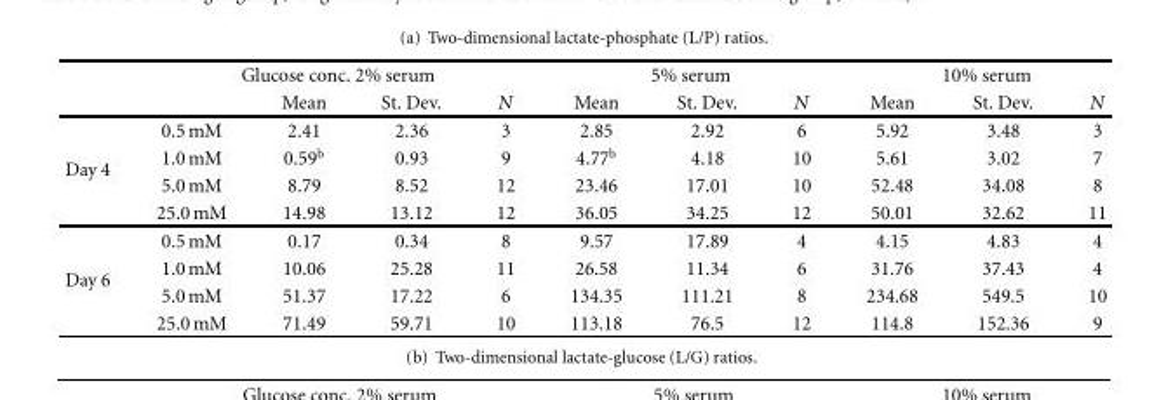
<table><thead><tr><td rowspan="2"></td><td colspan="4">Glucose conc. 2% serum</td><td colspan="3">5% serum</td><td colspan="3">10% serum</td></tr><tr><td></td><td>Mean</td><td>St. Dev.</td><td>N</td><td>Mean</td><td>St. Dev.</td><td>N</td><td>Mean</td><td>St. Dev.</td><td>N</td></tr></thead><tbody><tr><td rowspan="4">Day 4</td><td>0.5 mM</td><td>2.41</td><td>2.36</td><td>3</td><td>2.85</td><td>2.92</td><td>6</td><td>5.92</td><td>3.48</td><td>3</td></tr><tr><td>1.0 mM</td><td>0.59<sup>b</sup></td><td>0.93</td><td>9</td><td>4.77<sup>b</sup></td><td>4.18</td><td>10</td><td>5.61</td><td>3.02</td><td>7</td></tr><tr><td>5.0 mM</td><td>8.79</td><td>8.52</td><td>12</td><td>23.46</td><td>17.01</td><td>10</td><td>52.48</td><td>34.08</td><td>8</td></tr><tr><td>25.0 mM</td><td>14.98</td><td>13.12</td><td>12</td><td>36.05</td><td>34.25</td><td>12</td><td>50.01</td><td>32.62</td><td>11</td></tr><tr><td rowspan="4">Day 6</td><td>0.5 mM</td><td>0.17</td><td>0.34</td><td>8</td><td>9.57</td><td>17.89</td><td>4</td><td>4.15</td><td>4.83</td><td>4</td></tr><tr><td>1.0 mM</td><td>10.06</td><td>25.28</td><td>11</td><td>26.58</td><td>11.34</td><td>6</td><td>31.76</td><td>37.43</td><td>4</td></tr><tr><td>5.0 mM</td><td>51.37</td><td>17.22</td><td>6</td><td>134.35</td><td>111.21</td><td>8</td><td>234.68</td><td>549.5</td><td>10</td></tr><tr><td>25.0 mM</td><td>71.49</td><td>59.71</td><td>10</td><td>113.18</td><td>76.5</td><td>12</td><td>114.8</td><td>152.36</td><td>9</td></tr></tbody></table>